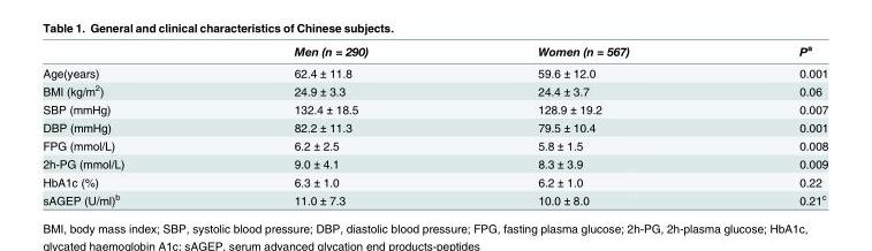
<table><thead><tr><td></td><td>Men (n = 290)</td><td>Women (n = 567)</td><td>P<sup>a</sup></td></tr></thead><tbody><tr><td>Age(years)</td><td>62.4 ± 11.8</td><td>59.6 ± 12.0</td><td>0.001</td></tr><tr><td>BMI (kg/m<sup>2</sup>)</td><td>24.9 ± 3.3</td><td>24.4 ± 3.7</td><td>0.06</td></tr><tr><td>SBP (mmHg)</td><td>132.4 ± 18.5</td><td>128.9 ± 19.2</td><td>0.007</td></tr><tr><td>DBP (mmHg)</td><td>82.2 ± 11.3</td><td>79.5 ± 10.4</td><td>0.001</td></tr><tr><td>FPG (mmol/L)</td><td>6.2 ± 2.5</td><td>5.8 ± 1.5</td><td>0.008</td></tr><tr><td>2h-PG (mmol/L)</td><td>9.0 ± 4.1</td><td>8.3 ± 3.9</td><td>0.009</td></tr><tr><td>HbA1c (%)</td><td>6.3 ± 1.0</td><td>6.2 ± 1.0</td><td>0.22</td></tr><tr><td>sAGEP (U/ml)<sup>b</sup></td><td>11.0 ± 7.3</td><td>10.0 ± 8.0</td><td>0.21<sup>c</sup></td></tr></tbody></table>